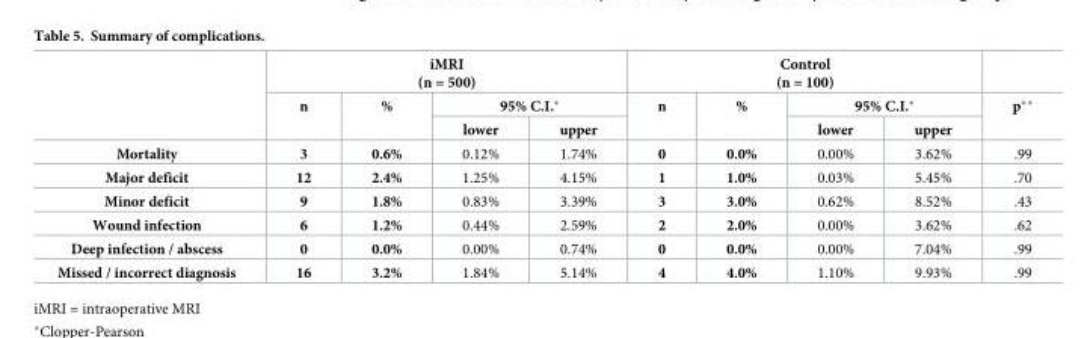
<table><thead><tr><td rowspan="3"></td><td colspan="4">iMRI (n = 500)</td><td colspan="4">Control (n = 100)</td><td rowspan="3">p**</td></tr><tr><td rowspan="2">n</td><td rowspan="2">%</td><td colspan="2">95% C.I.*</td><td rowspan="2">n</td><td rowspan="2">%</td><td colspan="2">95% C.I.*</td></tr><tr><td>lower</td><td>upper</td><td>lower</td><td>upper</td></tr></thead><tbody><tr><td>Mortality</td><td>3</td><td>0.6%</td><td>0.12%</td><td>1.74%</td><td>0</td><td>0.0%</td><td>0.00%</td><td>3.62%</td><td>.99</td></tr><tr><td>Major deficit</td><td>12</td><td>2.4%</td><td>1.25%</td><td>4.15%</td><td>1</td><td>1.0%</td><td>0.03%</td><td>5.45%</td><td>.70</td></tr><tr><td>Minor deficit</td><td>9</td><td>1.8%</td><td>0.83%</td><td>3.39%</td><td>3</td><td>3.0%</td><td>0.62%</td><td>8.52%</td><td>.43</td></tr><tr><td>Wound infection</td><td>6</td><td>1.2%</td><td>0.44%</td><td>2.59%</td><td>2</td><td>2.0%</td><td>0.00%</td><td>3.62%</td><td>.62</td></tr><tr><td>Deep infection / abscess</td><td>0</td><td>0.0%</td><td>0.00%</td><td>0.74%</td><td>0</td><td>0.0%</td><td>0.00%</td><td>7.04%</td><td>.99</td></tr><tr><td>Missed / incorrect diagnosis</td><td>16</td><td>3.2%</td><td>1.84%</td><td>5.14%</td><td>4</td><td>4.0%</td><td>1.10%</td><td>9.93%</td><td>.99</td></tr></tbody></table>